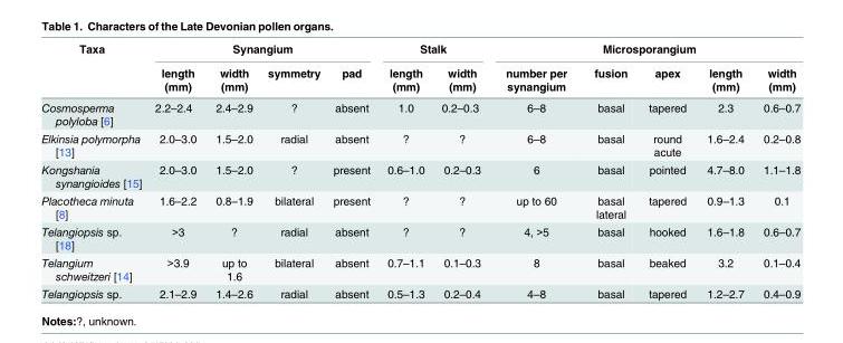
<table><thead><tr><td rowspan="2">Taxa</td><td colspan="4">Synangium</td><td colspan="2">Stalk</td><td colspan="5">Microsporangium</td></tr><tr><td>length (mm)</td><td>width (mm)</td><td>symmetry</td><td>pad</td><td>length (mm)</td><td>width (mm)</td><td>number per synangium</td><td>fusion</td><td>apex</td><td>length (mm)</td><td>width (mm)</td></tr></thead><tbody><tr><td>Cosmosperma polyloba [6]</td><td>2.2–2.4</td><td>2.4–2.9</td><td>?</td><td>absent</td><td>1.0</td><td>0.2–0.3</td><td>6–8</td><td>basal</td><td>tapered</td><td>2.3</td><td>0.6–0.7</td></tr><tr><td>Elkinsia polymorpha [13]</td><td>2.0–3.0</td><td>1.5–2.0</td><td>radial</td><td>absent</td><td>?</td><td>?</td><td>6–8</td><td>basal</td><td>round acute</td><td>1.6–2.4</td><td>0.2–0.8</td></tr><tr><td>Kongshania synangioides [15]</td><td>2.0–3.0</td><td>1.5–2.0</td><td>?</td><td>present</td><td>0.6–1.0</td><td>0.2–0.3</td><td>6</td><td>basal</td><td>pointed</td><td>4.7–8.0</td><td>1.1–1.8</td></tr><tr><td>Placotheca minuta [8]</td><td>1.6–2.2</td><td>0.8–1.9</td><td>bilateral</td><td>present</td><td>?</td><td>?</td><td>up to 60</td><td>basal lateral</td><td>tapered</td><td>0.9–1.3</td><td>0.1</td></tr><tr><td>Telangiopsis sp. [18]</td><td>&gt;3</td><td>?</td><td>radial</td><td>absent</td><td>?</td><td>?</td><td>4, &gt;5</td><td>basal</td><td>hooked</td><td>1.6–1.8</td><td>0.6–0.7</td></tr><tr><td>Telangium schweitzeri [14]</td><td>&gt;3.9</td><td>up to 1.6</td><td>bilateral</td><td>absent</td><td>0.7–1.1</td><td>0.1–0.3</td><td>8</td><td>basal</td><td>beaked</td><td>3.2</td><td>0.1–0.4</td></tr><tr><td>Telangiopsis sp.</td><td>2.1–2.9</td><td>1.4–2.6</td><td>radial</td><td>absent</td><td>0.5–1.3</td><td>0.2–0.4</td><td>4–8</td><td>basal</td><td>tapered</td><td>1.2–2.7</td><td>0.4–0.9</td></tr></tbody></table>